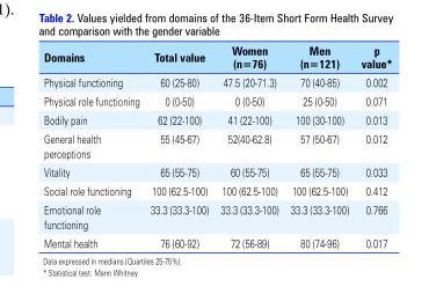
<table><thead><tr><td>Domains</td><td>Total value</td><td>Women (n=76)</td><td>Men (n=121)</td><td>p value*</td></tr></thead><tbody><tr><td>Physical functioning</td><td>60 (25-80)</td><td>47.5 (20-71.3)</td><td>70 (40-85)</td><td>0.002</td></tr><tr><td>Physical role functioning</td><td>0 (0-50)</td><td>0 (0-50)</td><td>25 (0-50)</td><td>0.071</td></tr><tr><td>Bodily pain</td><td>62 (22-100)</td><td>41 (22-100)</td><td>100 (30-100)</td><td>0.013</td></tr><tr><td>General health perceptions</td><td>55 (45-67)</td><td>52(40-62.8)</td><td>57 (50-67)</td><td>0.012</td></tr><tr><td>Vitality</td><td>65 (55-75)</td><td>60 (55-75)</td><td>65 (55-75)</td><td>0.033</td></tr><tr><td>Social role functioning</td><td>100 (62.5-100)</td><td>100 (62.5-100)</td><td>100 (62.5-100)</td><td>0.412</td></tr><tr><td>Emotional role functioning</td><td>33.3 (33.3-100)</td><td>33.3 (33.3-100)</td><td>33.3 (33.3-100)</td><td>0.766</td></tr><tr><td>Mental health</td><td>76 (60-92)</td><td>72 (56-89)</td><td>80 (74-96)</td><td>0.017</td></tr></tbody></table>